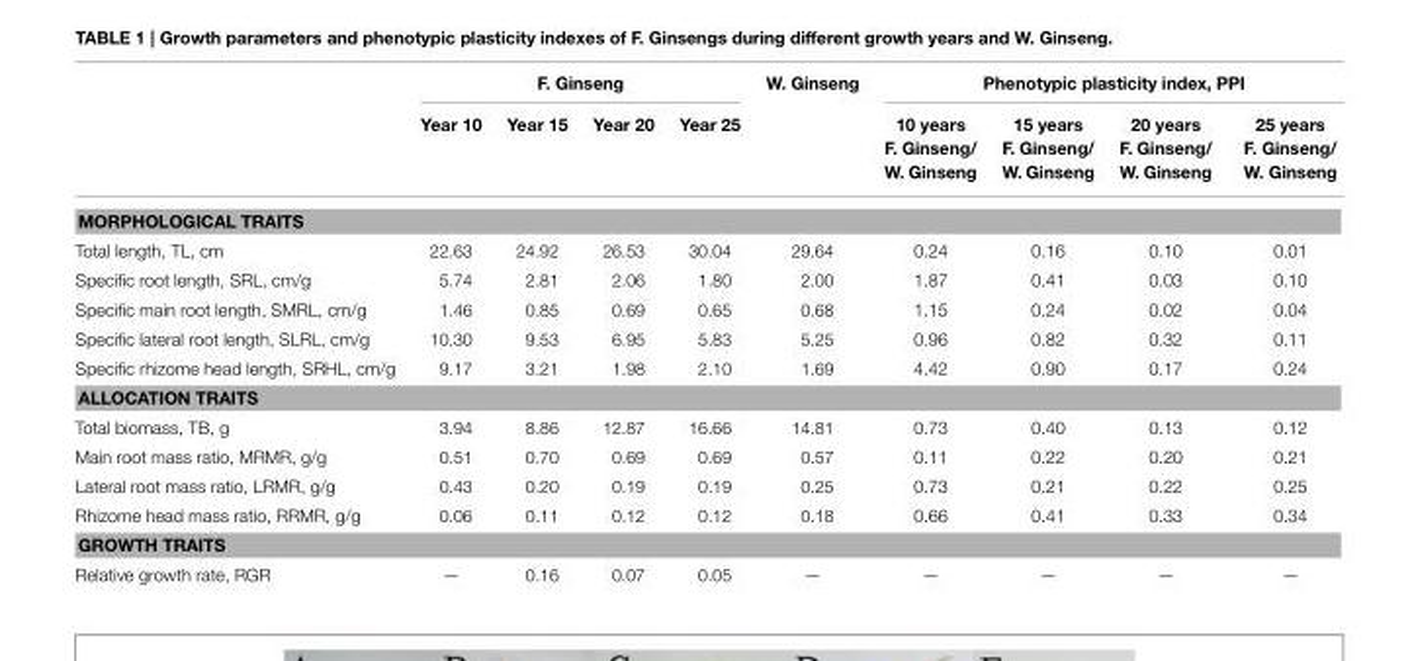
<table><thead><tr><td rowspan="2"></td><td colspan="4">F. Ginseng</td><td rowspan="2">W. Ginseng</td><td colspan="4">Phenotypic plasticity index, PPI</td></tr><tr><td>Year 10</td><td>Year 15</td><td>Year 20</td><td>Year 25</td><td>10 years F. Ginseng/ W. Ginseng</td><td>15 years F. Ginseng/ W. Ginseng</td><td>20 years F. Ginseng/ W. Ginseng</td><td>25 years F. Ginseng/ W. Ginseng</td></tr></thead><tbody><tr><td colspan="10">MORPHOLOGICAL TRAITS</td></tr><tr><td>Total length, TL, cm</td><td>22.63</td><td>24.92</td><td>26.53</td><td>30.04</td><td>29.64</td><td>0.24</td><td>0.16</td><td>0.10</td><td>0.01</td></tr><tr><td>Specific root length, SRL, cm/g</td><td>5.74</td><td>2.81</td><td>2.06</td><td>1.80</td><td>2.00</td><td>1.87</td><td>0.41</td><td>0.03</td><td>0.10</td></tr><tr><td>Specific main root length, SMRL, cm/g</td><td>1.46</td><td>0.85</td><td>0.69</td><td>0.65</td><td>0.68</td><td>1.15</td><td>0.24</td><td>0.02</td><td>0.04</td></tr><tr><td>Specific lateral root length, SLRL, cm/g</td><td>10.30</td><td>9.53</td><td>6.95</td><td>5.83</td><td>5.25</td><td>0.96</td><td>0.82</td><td>0.32</td><td>0.11</td></tr><tr><td>Specific rhizome head length, SRHL, cm/g</td><td>9.17</td><td>3.21</td><td>1.98</td><td>2.10</td><td>1.69</td><td>4.42</td><td>0.90</td><td>0.17</td><td>0.24</td></tr><tr><td colspan="10">ALLOCATION TRAITS</td></tr><tr><td>Total biomass, TB, g</td><td>3.94</td><td>8.86</td><td>12.87</td><td>16.66</td><td>14.81</td><td>0.73</td><td>0.40</td><td>0.13</td><td>0.12</td></tr><tr><td>Main root mass ratio, MRMR, g/g</td><td>0.51</td><td>0.70</td><td>0.69</td><td>0.69</td><td>0.57</td><td>0.11</td><td>0.22</td><td>0.20</td><td>0.21</td></tr><tr><td>Lateral root mass ratio, LRMR, g/g</td><td>0.43</td><td>0.20</td><td>0.19</td><td>0.19</td><td>0.25</td><td>0.73</td><td>0.21</td><td>0.22</td><td>0.25</td></tr><tr><td>Rhizome head mass ratio, RRMR, g/g</td><td>0.06</td><td>0.11</td><td>0.12</td><td>0.12</td><td>0.18</td><td>0.66</td><td>0.41</td><td>0.33</td><td>0.34</td></tr><tr><td colspan="10">GROWTH TRAITS</td></tr><tr><td>Relative growth rate, RGR</td><td>—</td><td>0.16</td><td>0.07</td><td>0.05</td><td>—</td><td>—</td><td>—</td><td>—</td><td>—</td></tr></tbody></table>